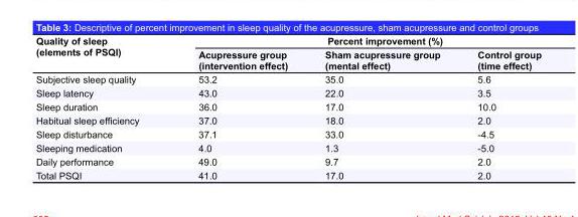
<table><thead><tr><td rowspan="2">Quality of sleep (elements of PSQI)</td><td colspan="3">Percent improvement (%)</td></tr><tr><td>Acupressure group (intervention effect)</td><td>Sham acupressure group (mental effect)</td><td>Control group (time effect)</td></tr></thead><tbody><tr><td>Subjective sleep quality</td><td>53.2</td><td>35.0</td><td>5.6</td></tr><tr><td>Sleep latency</td><td>43.0</td><td>22.0</td><td>3.5</td></tr><tr><td>Sleep duration</td><td>36.0</td><td>17.0</td><td>10.0</td></tr><tr><td>Habitual sleep efficiency</td><td>37.0</td><td>18.0</td><td>2.0</td></tr><tr><td>Sleep disturbance</td><td>37.1</td><td>33.0</td><td>-4.5</td></tr><tr><td>Sleeping medication</td><td>4.0</td><td>1.3</td><td>-5.0</td></tr><tr><td>Daily performance</td><td>49.0</td><td>9.7</td><td>2.0</td></tr><tr><td>Total PSQI</td><td>41.0</td><td>17.0</td><td>2.0</td></tr></tbody></table>